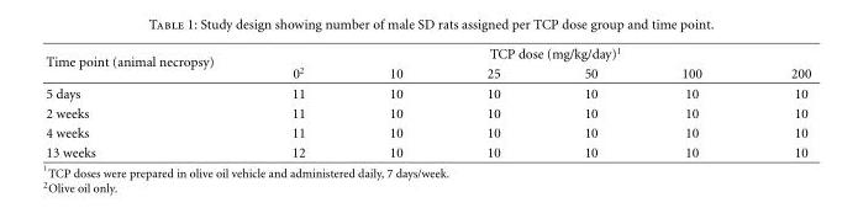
<table><thead><tr><td rowspan="2">Time point (animal necropsy)</td><td colspan="6">TCP dose (mg/kg/day)<sup>1</sup></td></tr><tr><td>0<sup>2</sup></td><td>10</td><td>25</td><td>50</td><td>100</td><td>200</td></tr></thead><tbody><tr><td>5 days</td><td>11</td><td>10</td><td>10</td><td>10</td><td>10</td><td>10</td></tr><tr><td>2 weeks</td><td>11</td><td>10</td><td>10</td><td>10</td><td>10</td><td>10</td></tr><tr><td>4 weeks</td><td>11</td><td>10</td><td>10</td><td>10</td><td>10</td><td>10</td></tr><tr><td>13 weeks</td><td>12</td><td>10</td><td>10</td><td>10</td><td>10</td><td>10</td></tr></tbody></table>